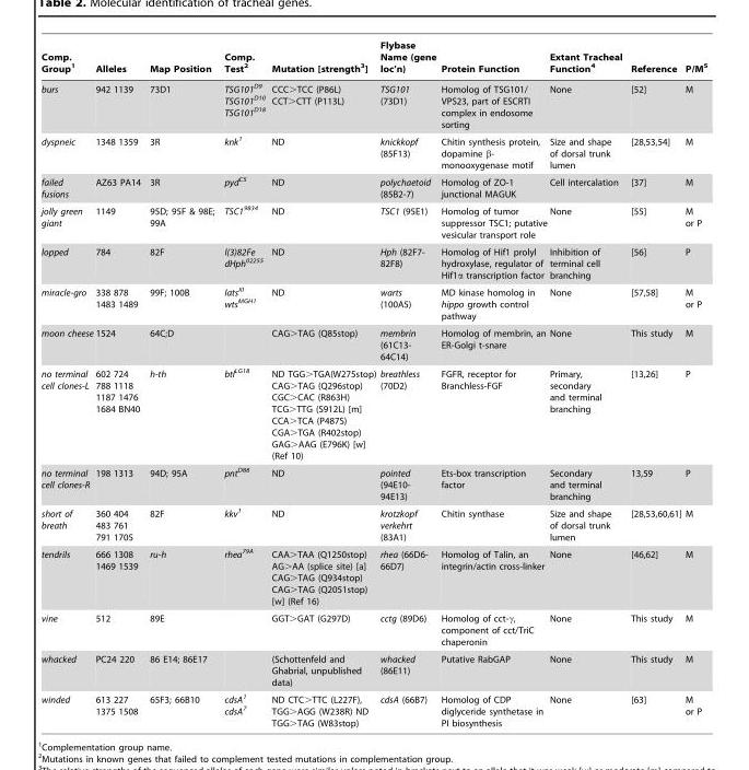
<table><thead><tr><td>Comp. Group<sup>1</sup></td><td>Alleles</td><td>Map Position</td><td>Comp. Test<sup>2</sup></td><td>Mutation [strength<sup>3</sup>]</td><td>Flybase Name (gene loc’n)</td><td>Protein Function</td><td>Extant Tracheal Function<sup>4</sup></td><td>Reference</td><td>P/M<sup>5</sup></td></tr></thead><tbody><tr><td>burs</td><td>942 1139</td><td>73D1</td><td>TSG101<sup>D9</sup> TSG101<sup>D10</sup> TSG101<sup>D18</sup></td><td>CCC&gt;TCC (P86L) CCT&gt;CTT (P113L)</td><td>TSG101 (73D1)</td><td>Homolog of TSG101/ VPS23, part of ESCRTI complex in endosome sorting</td><td>None</td><td>[52]</td><td>M</td></tr><tr><td>dyspneic</td><td>1348 1359</td><td>3R</td><td>knk1</td><td>ND</td><td>knickkopf (85F13)</td><td>Chitin synthesis protein, dopamine β- monooxygenase motif</td><td>Size and shape of dorsal trunk lumen</td><td>[28,53,54]</td><td>M</td></tr><tr><td>failed fusions</td><td>AZ63 PA14</td><td>3R</td><td>pyd<sup>C5</sup></td><td>ND</td><td>polychaetoid (85B2-7)</td><td>Homolog of ZO-1 junctional MAGUK</td><td>Cell intercalation</td><td>[37]</td><td>M</td></tr><tr><td>jolly green giant</td><td>1149</td><td>95D; 95F &amp; 98E; 99A</td><td>TSC1<sup>9834</sup></td><td>ND</td><td>TSC1 (95E1)</td><td>Homolog of tumor suppressor TSC1; putative vesicular transport role</td><td>None</td><td>[55]</td><td>M or P</td></tr><tr><td>lopped</td><td>784</td><td>82F</td><td>l(3)82Fe dHph<sup>02255</sup></td><td>ND</td><td>Hph (82F7- 82F8)</td><td>Homolog of Hif1 prolyl hydroxylase, regulator of Hif1α transcription factor</td><td>Inhibition of terminal cell branching</td><td>[56]</td><td>P</td></tr><tr><td>miracle-gro</td><td>338 878 1483 1489</td><td>99F; 100B</td><td>lats<sup>XI</sup> wts<sup>MGH1</sup></td><td>ND</td><td>warts (100A5)</td><td>MD kinase homolog in hippo growth control pathway</td><td>None</td><td>[57,58]</td><td>M or P</td></tr><tr><td>moon cheese</td><td>1524</td><td>64C;D</td><td></td><td>CAG&gt;TAG (Q85stop)</td><td>membrin (61C13- 64C14)</td><td>Homolog of membrin, an ER-Golgi t-snare</td><td>None</td><td>This study</td><td>M</td></tr><tr><td>no terminal cell clones-L</td><td>602 724 788 1118 1187 1476 1684 BN40</td><td>h-th</td><td>btl<sup>LG18</sup></td><td>ND TGG&gt;TGA(W275stop) CAG&gt;TAG (Q296stop) CGC&gt;CAC (R863H) TCG&gt;TTG (S912L) [m] CCA&gt;TCA (P487S) CGA&gt;TGA (R402stop) GAG&gt;AAG (E796K) [w] (Ref 10)</td><td>breathless (70D2)</td><td>FGFR, receptor for Branchless-FGF</td><td>Primary, secondary and terminal branching</td><td>[13,26]</td><td>P</td></tr><tr><td>no terminal cell clones-R</td><td>198 1313</td><td>94D; 95A</td><td>pnt<sup>D88</sup></td><td>ND</td><td>pointed (94E10- 94E13)</td><td>Ets-box transcription factor</td><td>Secondary and terminal branching</td><td>13,59</td><td>P</td></tr><tr><td>short of breath</td><td>360 404 483 761 791 1705</td><td>82F</td><td>kkv1</td><td>ND</td><td>krotzkopf verkehrt (83A1)</td><td>Chitin synthase</td><td>Size and shape of dorsal trunk lumen</td><td>[28,53,60,61]</td><td>M</td></tr><tr><td>tendrils</td><td>666 1308 1469 1539</td><td>ru-h</td><td>rhea<sup>79A</sup></td><td>CAA&gt;TAA (Q1250stop) AG&gt;AA (splice site) [a] CAG&gt;TAG (Q934stop) CAG&gt;TAG (Q2051stop) [w] (Ref 16)</td><td>rhea (66D6- 66D7)</td><td>Homolog of Talin, an integrin/actin cross-linker</td><td>None</td><td>[46,62]</td><td>M</td></tr><tr><td>vine</td><td>512</td><td>89E</td><td></td><td>GGT&gt;GAT (G297D)</td><td>cctg (89D6)</td><td>Homolog of cct-γ, component of cct/TriC chaperonin</td><td>None</td><td>This study</td><td>M</td></tr><tr><td>whacked</td><td>PC24 220</td><td>86 E14; 86E17</td><td></td><td>(Schottenfeld and Ghabrial, unpublished data)</td><td>whacked (86E11)</td><td>Putative RabGAP</td><td>None</td><td>This study</td><td>M</td></tr><tr><td>winded</td><td>613 227 1375 1508</td><td>65F3; 66B10</td><td>cdsA1 cdsA<sup>7</sup></td><td>ND CTC&gt;TTC (L227F), TGG&gt;AGG (W238R) ND TGG&gt;TAG (W83stop)</td><td>cdsA (66B7)</td><td>Homolog of CDP diglyceride synthetase in PI biosynthesis</td><td>None</td><td>[63]</td><td>M or P</td></tr></tbody></table>